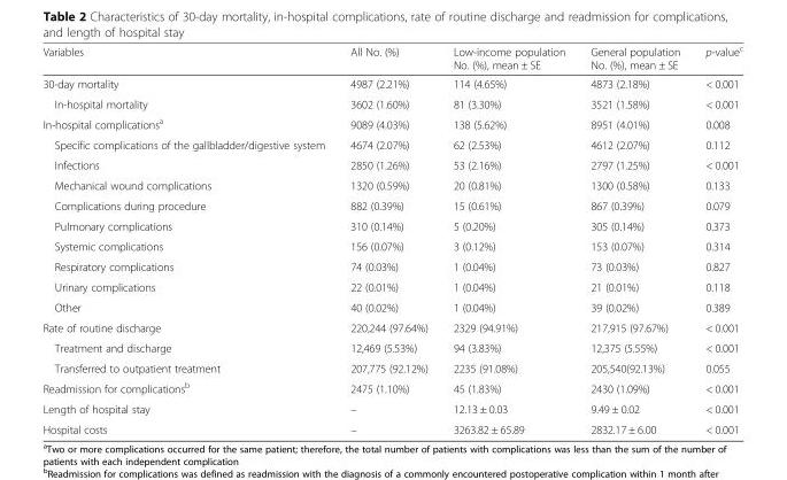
<table><thead><tr><td>Variables</td><td>All No. (%)</td><td>Low-income population No. (%), mean ± SE</td><td>General population No. (%), mean ± SE</td><td>p-value<sup>c</sup></td></tr></thead><tbody><tr><td>30-day mortality</td><td>4987 (2.21%)</td><td>114 (4.65%)</td><td>4873 (2.18%)</td><td>&lt; 0.001</td></tr><tr><td>In-hospital mortality</td><td>3602 (1.60%)</td><td>81 (3.30%)</td><td>3521 (1.58%)</td><td>&lt; 0.001</td></tr><tr><td>In-hospital complications<sup>a</sup></td><td>9089 (4.03%)</td><td>138 (5.62%)</td><td>8951 (4.01%)</td><td>0.008</td></tr><tr><td>Specific complications of the gallbladder/digestive system</td><td>4674 (2.07%)</td><td>62 (2.53%)</td><td>4612 (2.07%)</td><td>0.112</td></tr><tr><td>Infections</td><td>2850 (1.26%)</td><td>53 (2.16%)</td><td>2797 (1.25%)</td><td>&lt; 0.001</td></tr><tr><td>Mechanical wound complications</td><td>1320 (0.59%)</td><td>20 (0.81%)</td><td>1300 (0.58%)</td><td>0.133</td></tr><tr><td>Complications during procedure</td><td>882 (0.39%)</td><td>15 (0.61%)</td><td>867 (0.39%)</td><td>0.079</td></tr><tr><td>Pulmonary complications</td><td>310 (0.14%)</td><td>5 (0.20%)</td><td>305 (0.14%)</td><td>0.373</td></tr><tr><td>Systemic complications</td><td>156 (0.07%)</td><td>3 (0.12%)</td><td>153 (0.07%)</td><td>0.314</td></tr><tr><td>Respiratory complications</td><td>74 (0.03%)</td><td>1 (0.04%)</td><td>73 (0.03%)</td><td>0.827</td></tr><tr><td>Urinary complications</td><td>22 (0.01%)</td><td>1 (0.04%)</td><td>21 (0.01%)</td><td>0.118</td></tr><tr><td>Other</td><td>40 (0.02%)</td><td>1 (0.04%)</td><td>39 (0.02%)</td><td>0.389</td></tr><tr><td>Rate of routine discharge</td><td>220,244 (97.64%)</td><td>2329 (94.91%)</td><td>217,915 (97.67%)</td><td>&lt; 0.001</td></tr><tr><td>Treatment and discharge</td><td>12,469 (5.53%)</td><td>94 (3.83%)</td><td>12,375 (5.55%)</td><td>&lt; 0.001</td></tr><tr><td>Transferred to outpatient treatment</td><td>207,775 (92.12%)</td><td>2235 (91.08%)</td><td>205,540(92.13%)</td><td>0.055</td></tr><tr><td>Readmission for complications<sup>b</sup></td><td>2475 (1.10%)</td><td>45 (1.83%)</td><td>2430 (1.09%)</td><td>&lt; 0.001</td></tr><tr><td>Length of hospital stay</td><td>–</td><td>12.13 ± 0.03</td><td>9.49 ± 0.02</td><td>&lt; 0.001</td></tr><tr><td>Hospital costs</td><td>–</td><td>3263.82 ± 65.89</td><td>2832.17 ± 6.00</td><td>&lt; 0.001</td></tr></tbody></table>